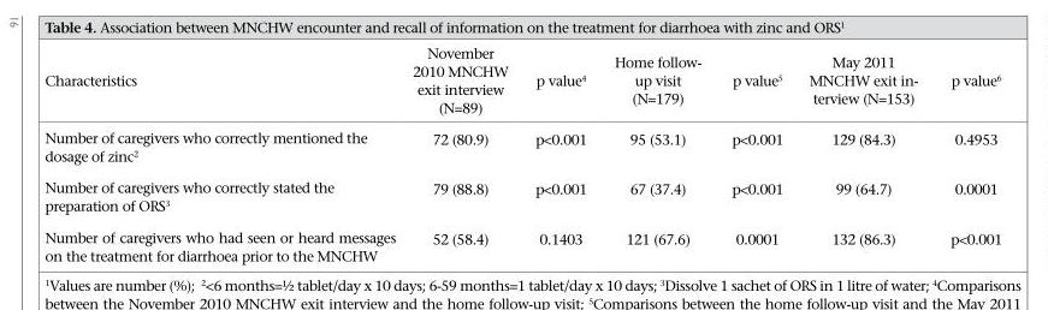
<table><thead><tr><td>Characteristics</td><td>November 2010 MNCHW exit interview (N=89)</td><td>p value<sup>4</sup></td><td>Home follow- up visit (N=179)</td><td>p value<sup>5</sup></td><td>May 2011 MNCHW exit in- terview (N=153)</td><td>p value<sup>6</sup></td></tr></thead><tbody><tr><td>Number of caregivers who correctly mentioned the dosage of zinc<sup>2</sup></td><td>72 (80.9)</td><td>p&lt;0.001</td><td>95 (53.1)</td><td>p&lt;0.001</td><td>129 (84.3)</td><td>0.4953</td></tr><tr><td>Number of caregivers who correctly stated the preparation of ORS<sup>3</sup></td><td>79 (88.8)</td><td>p&lt;0.001</td><td>67 (37.4)</td><td>p&lt;0.001</td><td>99 (64.7)</td><td>0.0001</td></tr><tr><td>Number of caregivers who had seen or heard messages on the treatment for diarrhoea prior to the MNCHW</td><td>52 (58.4)</td><td>0.1403</td><td>121 (67.6)</td><td>0.0001</td><td>132 (86.3)</td><td>p&lt;0.001</td></tr></tbody></table>